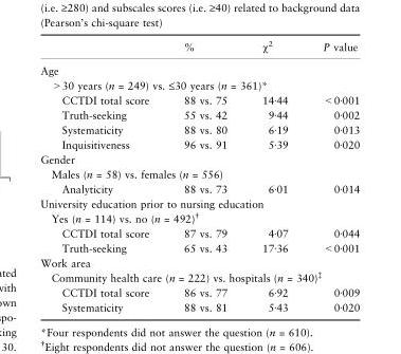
<table><thead><tr><td></td><td>%</td><td>χ<sup>2</sup></td><td>P value</td></tr></thead><tbody><tr><td colspan="4">Age</td></tr><tr><td colspan="4">&gt;30 years (n = 249) vs. ≤30 years (n = 361)*</td></tr><tr><td>CCTDI total score</td><td>88 vs. 75</td><td>14Æ44</td><td>&lt;0Æ001</td></tr><tr><td>Truth-seeking</td><td>55 vs. 42</td><td>9Æ44</td><td>0Æ002</td></tr><tr><td>Systematicity</td><td>88 vs. 80</td><td>6Æ19</td><td>0Æ013</td></tr><tr><td>Inquisitiveness</td><td>96 vs. 91</td><td>5Æ39</td><td>0Æ020</td></tr><tr><td colspan="4">Gender</td></tr><tr><td colspan="4">Males (n = 58) vs. females (n = 556)</td></tr><tr><td>Analyticity</td><td>88 vs. 73</td><td>6Æ01</td><td>0Æ014</td></tr><tr><td colspan="4">University education prior to nursing education</td></tr><tr><td colspan="4">Yes (n = 114) vs. no (n = 492)†</td></tr><tr><td>CCTDI total score</td><td>87 vs. 79</td><td>4Æ07</td><td>0Æ044</td></tr><tr><td>Truth-seeking</td><td>65 vs. 43</td><td>17Æ36</td><td>&lt;0Æ001</td></tr><tr><td colspan="4">Work area</td></tr><tr><td colspan="4">Community health care (n = 222) vs. hospitals (n = 340)‡</td></tr><tr><td>CCTDI total score</td><td>86 vs. 77</td><td>6Æ92</td><td>0Æ009</td></tr><tr><td>Systematicity</td><td>88 vs. 81</td><td>5Æ43</td><td>0Æ020</td></tr></tbody></table>